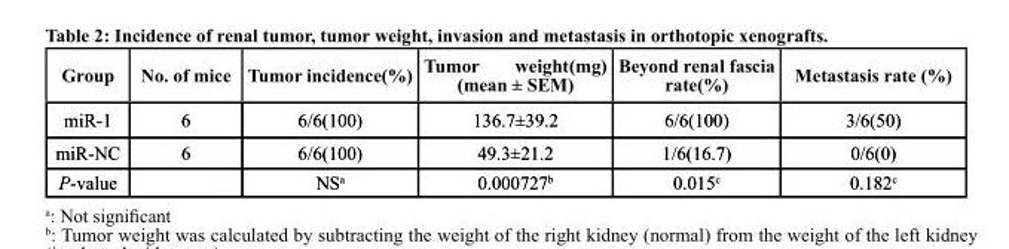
<table><thead><tr><td>Group</td><td>no. of mice</td><td>tumor incidence(%)</td><td>tumor weight(mg) (mean ± seM)</td><td>beyond renal fascia rate(%)</td><td>Metastasis rate (%)</td></tr></thead><tbody><tr><td>miR-1</td><td>6</td><td>6/6(100)</td><td>136.7±39.2</td><td>6/6(100)</td><td>3/6(50)</td></tr><tr><td>miR-NC</td><td>6</td><td>6/6(100)</td><td>49.3±21.2</td><td>1/6(16.7)</td><td>0/6(0)</td></tr><tr><td>P-value</td><td></td><td>NS<sup>a</sup></td><td>0.000727<sup>b</sup></td><td>0.015<sup>c</sup></td><td>0.182<sup>c</sup></td></tr></tbody></table>